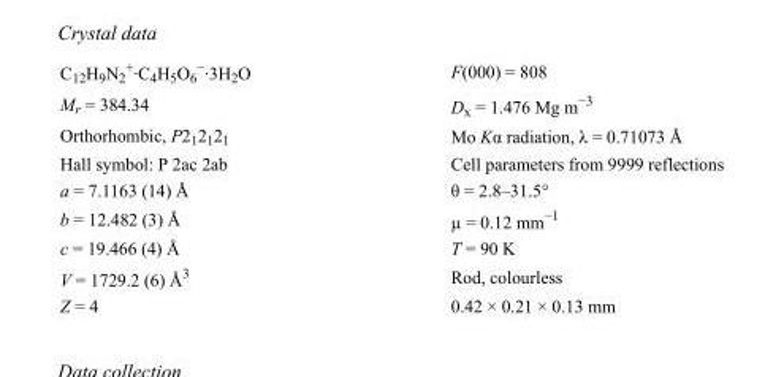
<table><tbody><tr><td>C<sub>12</sub>H<sub>9</sub>N<sub>2</sub> <sup>+</sup>·C<sub>4</sub>H<sub>5</sub>O<sub>6</sub> <sup>−</sup>·3H<sub>2</sub>O</td><td>F(000) = 808</td></tr><tr><td>M<sub>r</sub> = 384.34</td><td>D<sub>x</sub> = 1.476 Mg m<sup>−3</sup></td></tr><tr><td>Orthorhombic, P2<sub>1</sub>2<sub>1</sub>2<sub>1</sub></td><td>Mo Kα radiation, λ = 0.71073 Å</td></tr><tr><td>Hall symbol: P 2ac 2ab</td><td>Cell parameters from 9999 reflections</td></tr><tr><td>a = 7.1163 (14) Å</td><td>θ = 2.8–31.5°</td></tr><tr><td>b = 12.482 (3) Å</td><td>µ = 0.12 mm<sup>−1</sup></td></tr><tr><td>c = 19.466 (4) Å</td><td>T = 90 K</td></tr><tr><td>V = 1729.2 (6) Å<sup>3</sup></td><td>Rod, colourless</td></tr><tr><td>Z = 4</td><td>0.42 × 0.21 × 0.13 mm</td></tr></tbody></table>